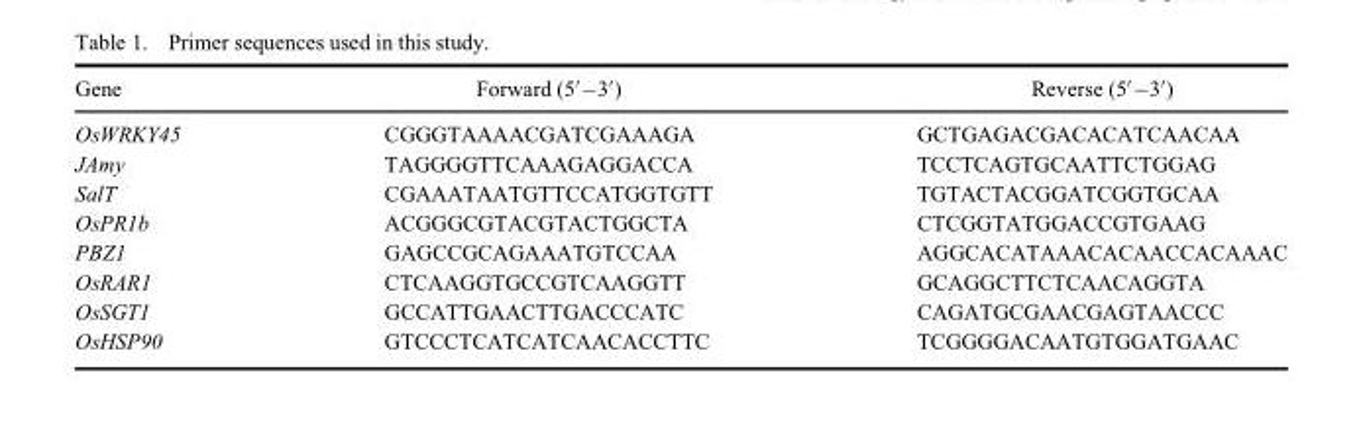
<table><thead><tr><td>Gene</td><td>Forward (5′–3′)</td><td>Reverse (5′–3′)</td></tr></thead><tbody><tr><td>OsWRKY45</td><td>CGGGTAAAACGATCGAAAGA</td><td>GCTGAGACGACACATCAACAA</td></tr><tr><td>JAmy</td><td>TAGGGGTTCAAAGAGGACCA</td><td>TCCTCAGTGCAATTCTGGAG</td></tr><tr><td>SalT</td><td>CGAAATAATGTTCCATGGTGTT</td><td>TGTACTACGGATCGGTGCAA</td></tr><tr><td>OsPR1b</td><td>ACGGGCGTACGTACTGGCTA</td><td>CTCGGTATGGACCGTGAAG</td></tr><tr><td>PBZ1</td><td>GAGCCGCAGAAATGTCCAA</td><td>AGGCACATAAACACAACCACAAAC</td></tr><tr><td>OsRAR1</td><td>CTCAAGGTGCCGTCAAGGTT</td><td>GCAGGCTTCTCAACAGGTA</td></tr><tr><td>OsSGT1</td><td>GCCATTGAACTTGACCCATC</td><td>CAGATGCGAACGAGTAACCC</td></tr><tr><td>OsHSP90</td><td>GTCCCTCATCATCAACACCTTC</td><td>TCGGGGACAATGTGGATGAAC</td></tr></tbody></table>